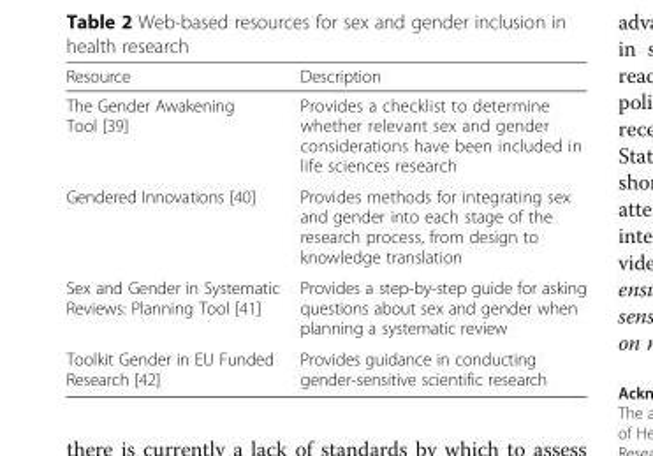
<table><thead><tr><td>Resource</td><td>Description</td></tr></thead><tbody><tr><td>The Gender Awakening Tool [39]</td><td>Provides a checklist to determine whether relevant sex and gender considerations have been included in life sciences research</td></tr><tr><td>Gendered Innovations [40]</td><td>Provides methods for integrating sex and gender into each stage of the research process, from design to knowledge translation</td></tr><tr><td>Sex and Gender in Systematic Reviews: Planning Tool [41]</td><td>Provides a step-by-step guide for asking questions about sex and gender when planning a systematic review</td></tr><tr><td>Toolkit Gender in EU Funded Research [42]</td><td>Provides guidance in conducting gender-sensitive scientific research</td></tr></tbody></table>